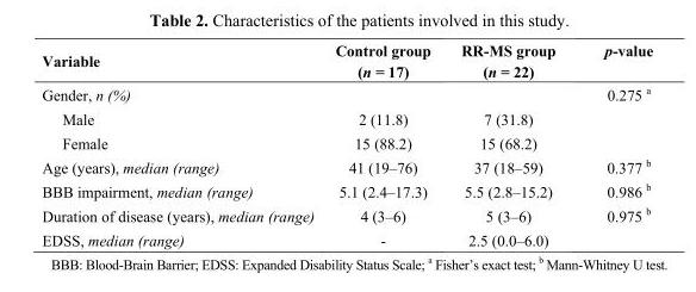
<table><thead><tr><td>Variable</td><td>Control group (n = 17)</td><td>RR-MS group (n = 22)</td><td>p-value</td></tr></thead><tbody><tr><td>Gender, n (%)</td><td></td><td></td><td>0.275 <sup>a</sup></td></tr><tr><td>Male</td><td>2 (11.8)</td><td>7 (31.8)</td><td></td></tr><tr><td>Female</td><td>15 (88.2)</td><td>15 (68.2)</td><td></td></tr><tr><td>Age (years), median (range)</td><td>41 (19–76)</td><td>37 (18–59)</td><td>0.377 <sup>b</sup></td></tr><tr><td>BBB impairment, median (range)</td><td>5.1 (2.4–17.3)</td><td>5.5 (2.8–15.2)</td><td>0.986 <sup>b</sup></td></tr><tr><td>Duration of disease (years), median (range)</td><td>4 (3–6)</td><td>5 (3–6)</td><td>0.975 <sup>b</sup></td></tr><tr><td>EDSS, median (range)</td><td>-</td><td>2.5 (0.0–6.0)</td><td></td></tr></tbody></table>